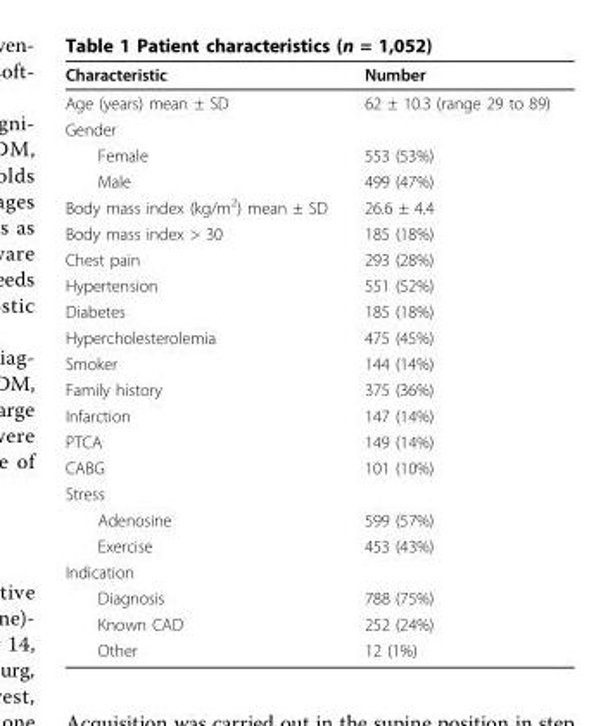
<table><thead><tr><td>Characteristic</td><td>Number</td></tr></thead><tbody><tr><td>Age (years) mean ± SD</td><td>62 ± 10.3 (range 29 to 89)</td></tr><tr><td colspan="2">Gender</td></tr><tr><td>Female</td><td>553 (53%)</td></tr><tr><td>Male</td><td>499 (47%)</td></tr><tr><td>Body mass index (kg/m<sup>2</sup>) mean ± SD</td><td>26.6 ± 4.4</td></tr><tr><td>Body mass index &gt; 30</td><td>185 (18%)</td></tr><tr><td>Chest pain</td><td>293 (28%)</td></tr><tr><td>Hypertension</td><td>551 (52%)</td></tr><tr><td>Diabetes</td><td>185 (18%)</td></tr><tr><td>Hypercholesterolemia</td><td>475 (45%)</td></tr><tr><td>Smoker</td><td>144 (14%)</td></tr><tr><td>Family history</td><td>375 (36%)</td></tr><tr><td>Infarction</td><td>147 (14%)</td></tr><tr><td>PTCA</td><td>149 (14%)</td></tr><tr><td>CABG</td><td>101 (10%)</td></tr><tr><td colspan="2">Stress</td></tr><tr><td>Adenosine</td><td>599 (57%)</td></tr><tr><td>Exercise</td><td>453 (43%)</td></tr><tr><td colspan="2">Indication</td></tr><tr><td>Diagnosis</td><td>788 (75%)</td></tr><tr><td>Known CAD</td><td>252 (24%)</td></tr><tr><td>Other</td><td>12 (1%)</td></tr></tbody></table>